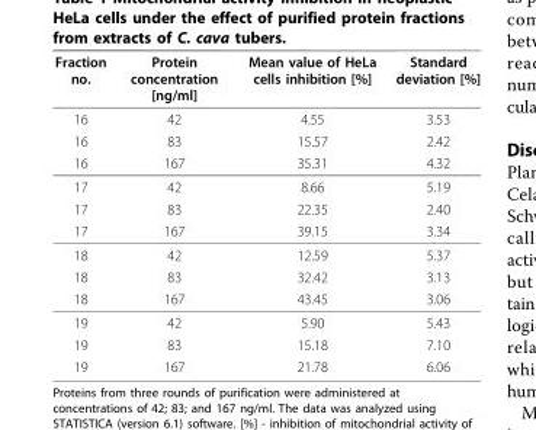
<table><thead><tr><td>Fraction no.</td><td>Protein concentration [ng/ml]</td><td>Mean value of HeLa cells inhibition [%]</td><td>Standard deviation [%]</td></tr></thead><tbody><tr><td>16</td><td>42</td><td>4.55</td><td>3.53</td></tr><tr><td>16</td><td>83</td><td>15.57</td><td>2.42</td></tr><tr><td>16</td><td>167</td><td>35.31</td><td>4.32</td></tr><tr><td>17</td><td>42</td><td>8.66</td><td>5.19</td></tr><tr><td>17</td><td>83</td><td>22.35</td><td>2.40</td></tr><tr><td>17</td><td>167</td><td>39.15</td><td>3.34</td></tr><tr><td>18</td><td>42</td><td>12.59</td><td>5.37</td></tr><tr><td>18</td><td>83</td><td>32.42</td><td>3.13</td></tr><tr><td>18</td><td>167</td><td>43.45</td><td>3.06</td></tr><tr><td>19</td><td>42</td><td>5.90</td><td>5.43</td></tr><tr><td>19</td><td>83</td><td>15.18</td><td>7.10</td></tr><tr><td>19</td><td>167</td><td>21.78</td><td>6.06</td></tr></tbody></table>